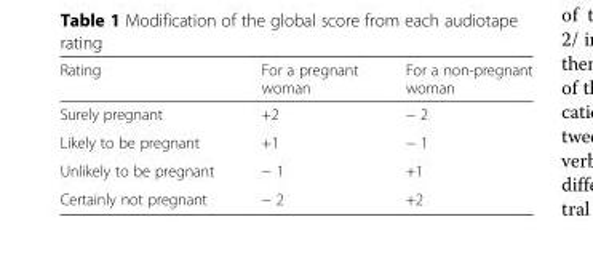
<table><thead><tr><td>Rating</td><td>For a pregnant woman</td><td>For a non-pregnant woman</td></tr></thead><tbody><tr><td>Surely pregnant</td><td>+2</td><td>− 2</td></tr><tr><td>Likely to be pregnant</td><td>+1</td><td>− 1</td></tr><tr><td>Unlikely to be pregnant</td><td>− 1</td><td>+1</td></tr><tr><td>Certainly not pregnant</td><td>− 2</td><td>+2</td></tr></tbody></table>